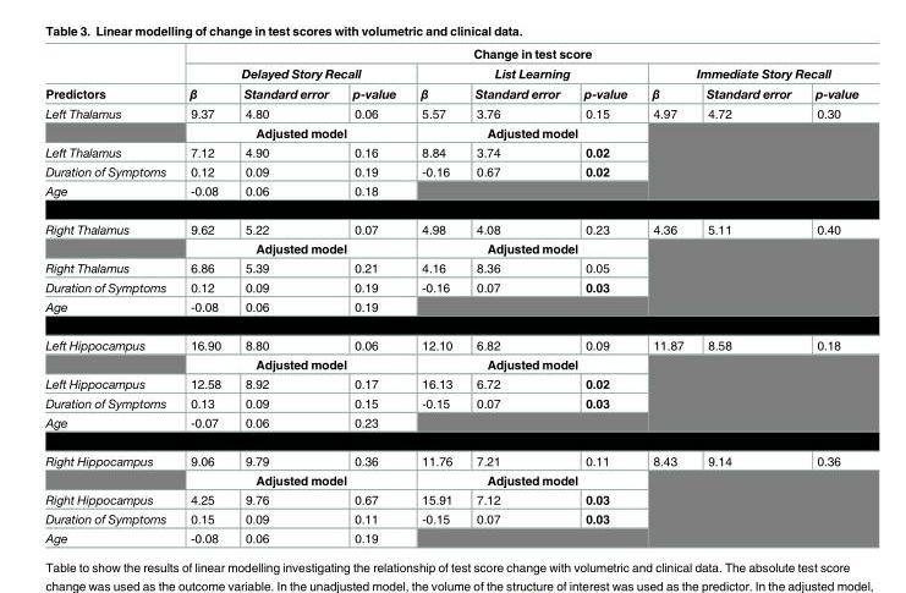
<table><thead><tr><td rowspan="3">Predictors</td><td colspan="9">Change in test score</td></tr><tr><td colspan="3">Delayed Story Recall</td><td colspan="3">List Learning</td><td colspan="3">Immediate Story Recall</td></tr><tr><td>β</td><td>Standard error</td><td>p-value</td><td>β</td><td>Standard error</td><td>p-value</td><td>β</td><td>Standard error</td><td>p-value</td></tr></thead><tbody><tr><td rowspan="2">Left Thalamus</td><td>9.37</td><td>4.80</td><td>0.06</td><td>5.57</td><td>3.76</td><td>0.15</td><td>4.97</td><td>4.72</td><td>0.30</td></tr><tr><td colspan="3">Adjusted model</td><td colspan="3">Adjusted model</td><td rowspan="4" colspan="3"></td></tr><tr><td>Left Thalamus</td><td>7.12</td><td>4.90</td><td>0.16</td><td>8.84</td><td>3.74</td><td>0.02</td></tr><tr><td>Duration of Symptoms</td><td>0.12</td><td>0.09</td><td>0.19</td><td>-0.16</td><td>0.67</td><td>0.02</td></tr><tr><td>Age</td><td>-0.08</td><td>0.06</td><td>0.18</td><td colspan="3"></td></tr><tr><td rowspan="2">Right Thalamus</td><td>9.62</td><td>5.22</td><td>0.07</td><td>4.98</td><td>4.08</td><td>0.23</td><td>4.36</td><td>5.11</td><td>0.40</td></tr><tr><td colspan="3">Adjusted model</td><td colspan="3">Adjusted model</td><td rowspan="4" colspan="3"></td></tr><tr><td>Right Thalamus</td><td>6.86</td><td>5.39</td><td>0.21</td><td>4.16</td><td>8.36</td><td>0.05</td></tr><tr><td>Duration of Symptoms</td><td>0.12</td><td>0.09</td><td>0.19</td><td>-0.16</td><td>0.07</td><td>0.03</td></tr><tr><td>Age</td><td>-0.08</td><td>0.06</td><td>0.19</td><td colspan="3"></td></tr><tr><td rowspan="2">Left Hippocampus</td><td>16.90</td><td>8.80</td><td>0.06</td><td>12.10</td><td>6.82</td><td>0.09</td><td>11.87</td><td>8.58</td><td>0.18</td></tr><tr><td colspan="3">Adjusted model</td><td colspan="3">Adjusted model</td><td rowspan="4" colspan="3"></td></tr><tr><td>Left Hippocampus</td><td>12.58</td><td>8.92</td><td>0.17</td><td>16.13</td><td>6.72</td><td>0.02</td></tr><tr><td>Duration of Symptoms</td><td>0.13</td><td>0.09</td><td>0.15</td><td>-0.15</td><td>0.07</td><td>0.03</td></tr><tr><td>Age</td><td>-0.07</td><td>0.06</td><td>0.23</td><td colspan="3"></td></tr><tr><td rowspan="2">Right Hippocampus</td><td>9.06</td><td>9.79</td><td>0.36</td><td>11.76</td><td>7.21</td><td>0.11</td><td>8.43</td><td>9.14</td><td>0.36</td></tr><tr><td colspan="3">Adjusted model</td><td colspan="3">Adjusted model</td><td rowspan="4" colspan="3"></td></tr><tr><td>Right Hippocampus</td><td>4.25</td><td>9.76</td><td>0.67</td><td>15.91</td><td>7.12</td><td>0.03</td></tr><tr><td>Duration of Symptoms</td><td>0.15</td><td>0.09</td><td>0.11</td><td>-0.15</td><td>0.07</td><td>0.03</td></tr><tr><td>Age</td><td>-0.08</td><td>0.06</td><td>0.19</td><td colspan="3"></td></tr></tbody></table>